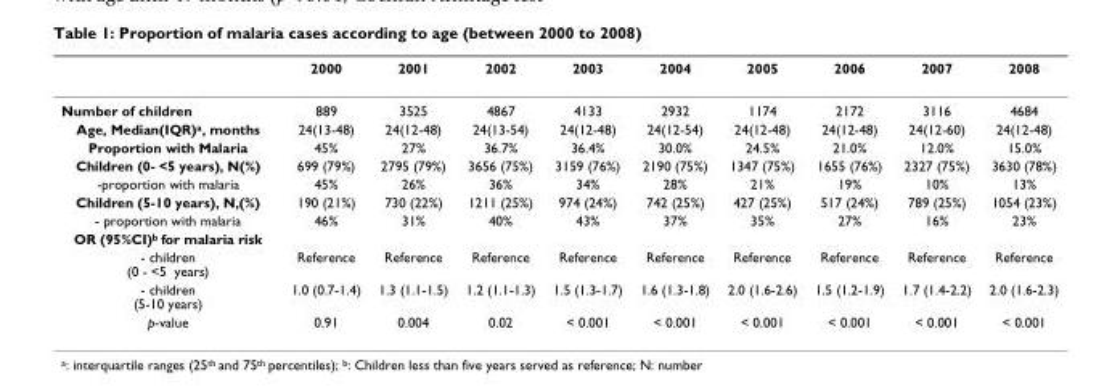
<table><thead><tr><td></td><td>2000</td><td>2001</td><td>2002</td><td>2003</td><td>2004</td><td>2005</td><td>2006</td><td>2007</td><td>2008</td></tr></thead><tbody><tr><td>Number of children</td><td>889</td><td>3525</td><td>4867</td><td>4133</td><td>2932</td><td>1174</td><td>2172</td><td>3116</td><td>4684</td></tr><tr><td>Age, Median(IQR)a, months</td><td>24(13-48)</td><td>24(12-48)</td><td>24(13-54)</td><td>24(12-48)</td><td>24(12-54)</td><td>24(12-48)</td><td>24(12-48)</td><td>24(12-60)</td><td>24(12-48)</td></tr><tr><td>Proportion with Malaria</td><td>45%</td><td>27%</td><td>36.7%</td><td>36.4%</td><td>30.0%</td><td>24.5%</td><td>21.0%</td><td>12.0%</td><td>15.0%</td></tr><tr><td>Children (0- &lt;5 years), N(%)</td><td>699 (79%)</td><td>2795 (79%)</td><td>3656 (75%)</td><td>3159 (76%)</td><td>2190 (75%)</td><td>1347 (75%)</td><td>1655 (76%)</td><td>2327 (75%)</td><td>3630 (78%)</td></tr><tr><td>-proportion with malaria</td><td>45%</td><td>26%</td><td>36%</td><td>34%</td><td>28%</td><td>21%</td><td>19%</td><td>10%</td><td>13%</td></tr><tr><td>Children (5-10 years), N,(%)</td><td>190 (21%)</td><td>730 (22%)</td><td>1211 (25%)</td><td>974 (24%)</td><td>742 (25%)</td><td>427 (25%)</td><td>517 (24%)</td><td>789 (25%)</td><td>1054 (23%)</td></tr><tr><td>- proportion with malaria</td><td>46%</td><td>31%</td><td>40%</td><td>43%</td><td>37%</td><td>35%</td><td>27%</td><td>16%</td><td>23%</td></tr><tr><td colspan="10">OR (95%CI)<sup>b</sup> for malaria risk</td></tr><tr><td>- children (0 - &lt;5 years)</td><td>Reference</td><td>Reference</td><td>Reference</td><td>Reference</td><td>Reference</td><td>Reference</td><td>Reference</td><td>Reference</td><td>Reference</td></tr><tr><td>- children (5-10 years)</td><td>1.0 (0.7-1.4)</td><td>1.3 (1.1-1.5)</td><td>1.2 (1.1-1.3)</td><td>1.5 (1.3-1.7)</td><td>1.6 (1.3-1.8)</td><td>2.0 (1.6-2.6)</td><td>1.5 (1.2-1.9)</td><td>1.7 (1.4-2.2)</td><td>2.0 (1.6-2.3)</td></tr><tr><td>p-value</td><td>0.91</td><td>0.004</td><td>0.02</td><td>&lt; 0.001</td><td>&lt; 0.001</td><td>&lt; 0.001</td><td>&lt; 0.001</td><td>&lt; 0.001</td><td>&lt; 0.001</td></tr></tbody></table>